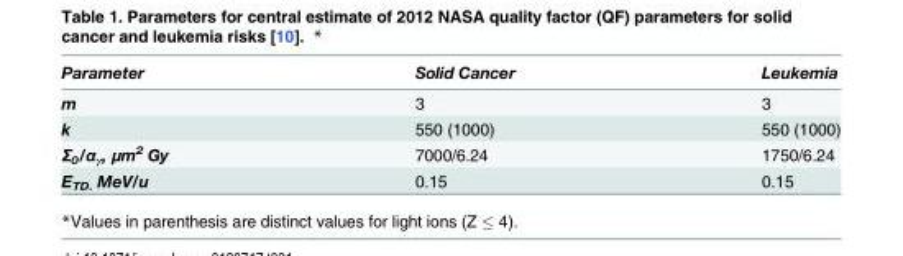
<table><thead><tr><td>Parameter</td><td>Solid Cancer</td><td>Leukemia</td></tr></thead><tbody><tr><td>m</td><td>3</td><td>3</td></tr><tr><td>k</td><td>550 (1000)</td><td>550 (1000)</td></tr><tr><td>Σ0/αγ, μm2 Gy</td><td>7000/6.24</td><td>1750/6.24</td></tr><tr><td>E<sub>TD.</sub> MeV/u</td><td>0.15</td><td>0.15</td></tr></tbody></table>